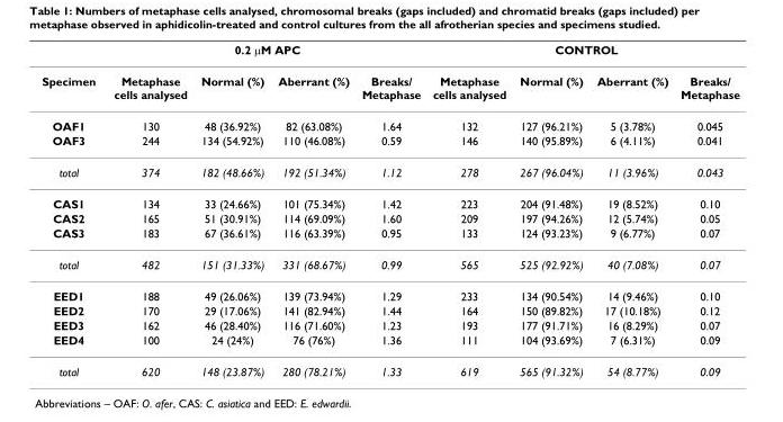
<table><thead><tr><td rowspan="2">Specimen</td><td colspan="4">0.2 µM APC</td><td colspan="4">CONTROL</td></tr><tr><td>Metaphase cells analysed</td><td>Normal (%)</td><td>Aberrant (%)</td><td>Breaks/ Metaphase</td><td>Metaphase cells analysed</td><td>Normal (%)</td><td>Aberrant (%)</td><td>Breaks/ Metaphase</td></tr></thead><tbody><tr><td>OAF1</td><td>130</td><td>48 (36.92%)</td><td>82 (63.08%)</td><td>1.64</td><td>132</td><td>127 (96.21%)</td><td>5 (3.78%)</td><td>0.045</td></tr><tr><td>OAF3</td><td>244</td><td>134 (54.92%)</td><td>110 (46.08%)</td><td>0.59</td><td>146</td><td>140 (95.89%)</td><td>6 (4.11%)</td><td>0.041</td></tr><tr><td>total</td><td>374</td><td>182 (48.66%)</td><td>192 (51.34%)</td><td>1.12</td><td>278</td><td>267 (96.04%)</td><td>11 (3.96%)</td><td>0.043</td></tr><tr><td>CAS1</td><td>134</td><td>33 (24.66%)</td><td>101 (75.34%)</td><td>1.42</td><td>223</td><td>204 (91.48%)</td><td>19 (8.52%)</td><td>0.10</td></tr><tr><td>CAS2</td><td>165</td><td>51 (30.91%)</td><td>114 (69.09%)</td><td>1.60</td><td>209</td><td>197 (94.26%)</td><td>12 (5.74%)</td><td>0.05</td></tr><tr><td>CAS3</td><td>183</td><td>67 (36.61%)</td><td>116 (63.39%)</td><td>0.95</td><td>133</td><td>124 (93.23%)</td><td>9 (6.77%)</td><td>0.07</td></tr><tr><td>total</td><td>482</td><td>151 (31.33%)</td><td>331 (68.67%)</td><td>0.99</td><td>565</td><td>525 (92.92%)</td><td>40 (7.08%)</td><td>0.07</td></tr><tr><td>EED1</td><td>188</td><td>49 (26.06%)</td><td>139 (73.94%)</td><td>1.29</td><td>233</td><td>134 (90.54%)</td><td>14 (9.46%)</td><td>0.10</td></tr><tr><td>EED2</td><td>170</td><td>29 (17.06%)</td><td>141 (82.94%)</td><td>1.44</td><td>164</td><td>150 (89.82%)</td><td>17 (10.18%)</td><td>0.12</td></tr><tr><td>EED3</td><td>162</td><td>46 (28.40%)</td><td>116 (71.60%)</td><td>1.23</td><td>193</td><td>177 (91.71%)</td><td>16 (8.29%)</td><td>0.07</td></tr><tr><td>EED4</td><td>100</td><td>24 (24%)</td><td>76 (76%)</td><td>1.36</td><td>111</td><td>104 (93.69%)</td><td>7 (6.31%)</td><td>0.09</td></tr><tr><td>total</td><td>620</td><td>148 (23.87%)</td><td>280 (78.21%)</td><td>1.33</td><td>619</td><td>565 (91.32%)</td><td>54 (8.77%)</td><td>0.09</td></tr></tbody></table>